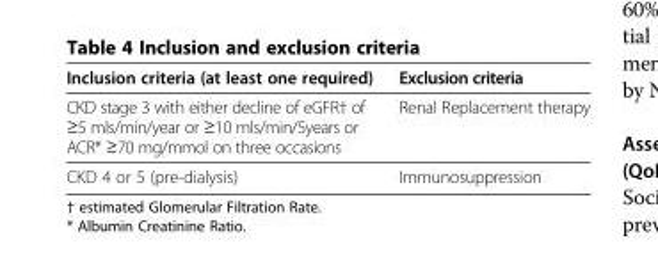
<table><thead><tr><td>Inclusion criteria (at least one required)</td><td>Exclusion criteria</td></tr></thead><tbody><tr><td>CKD stage 3 with either decline of eGFR† of ≥5 mls/min/year or ≥10 mls/min/5years or ACR* ≥70 mg/mmol on three occasions</td><td>Renal Replacement therapy</td></tr><tr><td>CKD 4 or 5 (pre-dialysis)</td><td>Immunosuppression</td></tr></tbody></table>